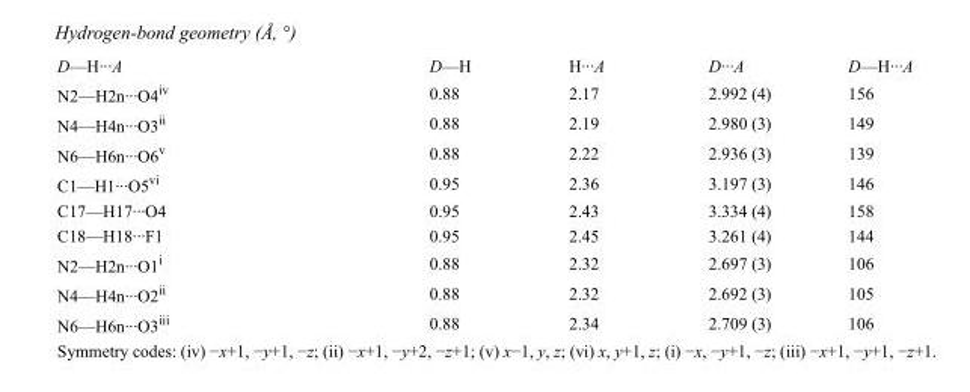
<table><tbody><tr><td>D—H···A</td><td>D—H</td><td>H···A</td><td>D···A</td><td>D—H···A</td></tr><tr><td>N2—H2n···O4<sup>iv</sup></td><td>0.88</td><td>2.17</td><td>2.992 (4)</td><td>156</td></tr><tr><td>N4—H4n···O3<sup>ii</sup></td><td>0.88</td><td>2.19</td><td>2.980 (3)</td><td>149</td></tr><tr><td>N6—H6n···O6<sup>v</sup></td><td>0.88</td><td>2.22</td><td>2.936 (3)</td><td>139</td></tr><tr><td>C1—H1···O5<sup>vi</sup></td><td>0.95</td><td>2.36</td><td>3.197 (3)</td><td>146</td></tr><tr><td>C17—H17···O4</td><td>0.95</td><td>2.43</td><td>3.334 (4)</td><td>158</td></tr><tr><td>C18—H18···F1</td><td>0.95</td><td>2.45</td><td>3.261 (4)</td><td>144</td></tr><tr><td>N2—H2n···O1<sup>i</sup></td><td>0.88</td><td>2.32</td><td>2.697 (3)</td><td>106</td></tr><tr><td>N4—H4n···O2<sup>ii</sup></td><td>0.88</td><td>2.32</td><td>2.692 (3)</td><td>105</td></tr><tr><td>N6—H6n···O3<sup>iii</sup></td><td>0.88</td><td>2.34</td><td>2.709 (3)</td><td>106</td></tr></tbody></table>